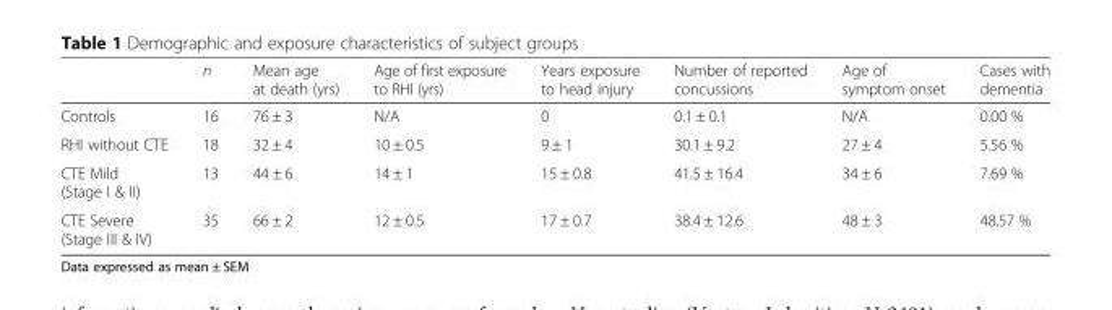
<table><thead><tr><td></td><td>n</td><td>Mean age at death (yrs)</td><td>Age of first exposure to RHI (yrs)</td><td>Years exposure to head injury</td><td>Number of reported concussions</td><td>Age of symptom onset</td><td>Cases with dementia</td></tr></thead><tbody><tr><td>Controls</td><td>16</td><td>76 ± 3</td><td>N/A</td><td>0</td><td>0.1 ± 0.1</td><td>N/A</td><td>0.00 %</td></tr><tr><td>RHI without CTE</td><td>18</td><td>32 ± 4</td><td>10 ± 0.5</td><td>9 ± 1</td><td>30.1 ± 9.2</td><td>27 ± 4</td><td>5.56 %</td></tr><tr><td>CTE Mild (Stage I &amp; II)</td><td>13</td><td>44 ± 6</td><td>14 ± 1</td><td>15 ± 0.8</td><td>41.5 ± 16.4</td><td>34 ± 6</td><td>7.69 %</td></tr><tr><td>CTE Severe (Stage III &amp; IV)</td><td>35</td><td>66 ± 2</td><td>12 ± 0.5</td><td>17 ± 0.7</td><td>38.4 ± 12.6</td><td>48 ± 3</td><td>48.57 %</td></tr></tbody></table>